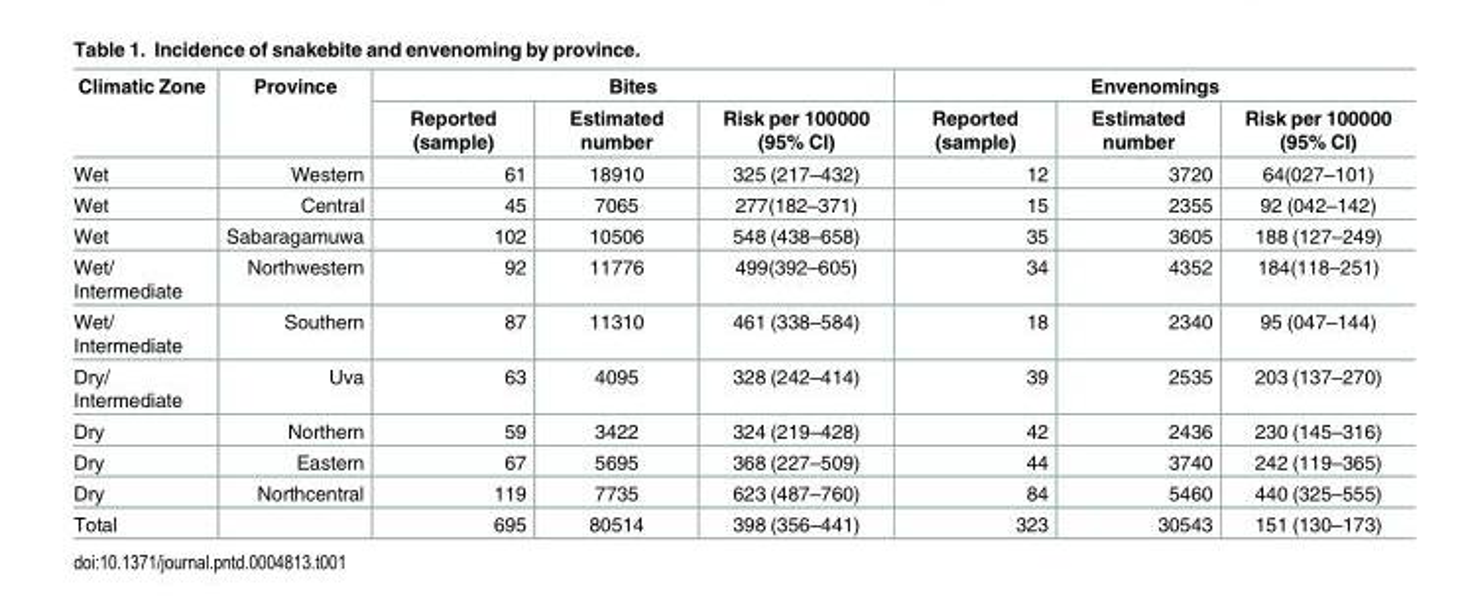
<table><thead><tr><td rowspan="2">Climatic Zone</td><td rowspan="2">Province</td><td colspan="3">Bites</td><td colspan="3">Envenomings</td></tr><tr><td>Reported (sample)</td><td>Estimated number</td><td>Risk per 100000 (95% CI)</td><td>Reported (sample)</td><td>Estimated number</td><td>Risk per 100000 (95% CI)</td></tr></thead><tbody><tr><td>Wet</td><td>Western</td><td>61</td><td>18910</td><td>325 (217–432)</td><td>12</td><td>3720</td><td>64(027–101)</td></tr><tr><td>Wet</td><td>Central</td><td>45</td><td>7065</td><td>277(182–371)</td><td>15</td><td>2355</td><td>92 (042–142)</td></tr><tr><td>Wet</td><td>Sabaragamuwa</td><td>102</td><td>10506</td><td>548 (438–658)</td><td>35</td><td>3605</td><td>188 (127–249)</td></tr><tr><td>Wet/ Intermediate</td><td>Northwestern</td><td>92</td><td>11776</td><td>499(392–605)</td><td>34</td><td>4352</td><td>184(118–251)</td></tr><tr><td>Wet/ Intermediate</td><td>Southern</td><td>87</td><td>11310</td><td>461 (338–584)</td><td>18</td><td>2340</td><td>95 (047–144)</td></tr><tr><td>Dry/ Intermediate</td><td>Uva</td><td>63</td><td>4095</td><td>328 (242–414)</td><td>39</td><td>2535</td><td>203 (137–270)</td></tr><tr><td>Dry</td><td>Northern</td><td>59</td><td>3422</td><td>324 (219–428)</td><td>42</td><td>2436</td><td>230 (145–316)</td></tr><tr><td>Dry</td><td>Eastern</td><td>67</td><td>5695</td><td>368 (227–509)</td><td>44</td><td>3740</td><td>242 (119–365)</td></tr><tr><td>Dry</td><td>Northcentral</td><td>119</td><td>7735</td><td>623 (487–760)</td><td>84</td><td>5460</td><td>440 (325–555)</td></tr><tr><td>Total</td><td></td><td>695</td><td>80514</td><td>398 (356–441)</td><td>323</td><td>30543</td><td>151 (130–173)</td></tr></tbody></table>